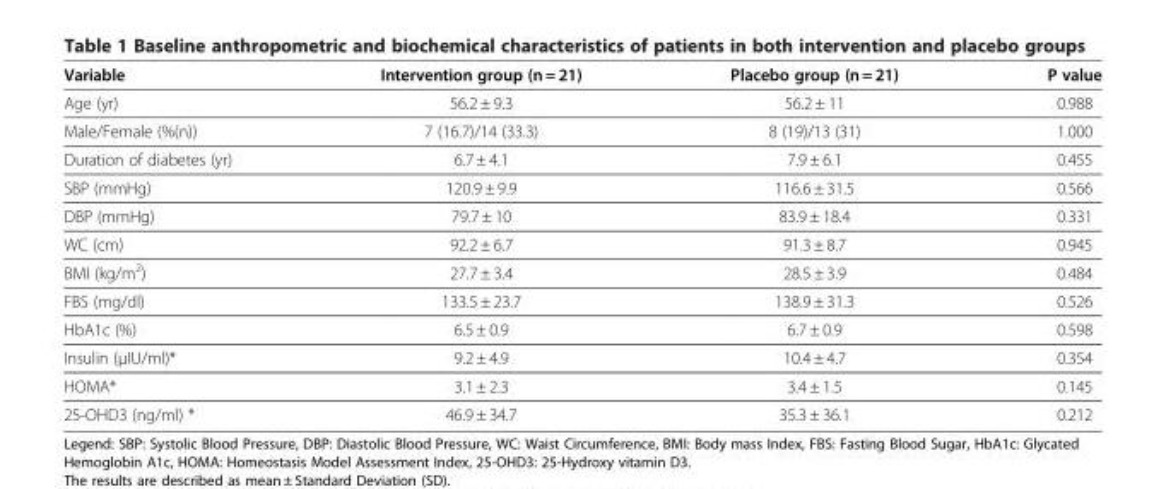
<table><thead><tr><td>Variable</td><td>Intervention group (n = 21)</td><td>Placebo group (n = 21)</td><td>P value</td></tr></thead><tbody><tr><td>Age (yr)</td><td>56.2 ± 9.3</td><td>56.2 ± 11</td><td>0.988</td></tr><tr><td>Male/Female (%(n))</td><td>7 (16.7)/14 (33.3)</td><td>8 (19)/13 (31)</td><td>1.000</td></tr><tr><td>Duration of diabetes (yr)</td><td>6.7 ± 4.1</td><td>7.9 ± 6.1</td><td>0.455</td></tr><tr><td>SBP (mmHg)</td><td>120.9 ± 9.9</td><td>116.6 ± 31.5</td><td>0.566</td></tr><tr><td>DBP (mmHg)</td><td>79.7 ± 10</td><td>83.9 ± 18.4</td><td>0.331</td></tr><tr><td>WC (cm)</td><td>92.2 ± 6.7</td><td>91.3 ± 8.7</td><td>0.945</td></tr><tr><td>BMI (kg/m<sup>2</sup>)</td><td>27.7 ± 3.4</td><td>28.5 ± 3.9</td><td>0.484</td></tr><tr><td>FBS (mg/dl)</td><td>133.5 ± 23.7</td><td>138.9 ± 31.3</td><td>0.526</td></tr><tr><td>HbA1c (%)</td><td>6.5 ± 0.9</td><td>6.7 ± 0.9</td><td>0.598</td></tr><tr><td>Insulin (μIU/ml)*</td><td>9.2 ± 4.9</td><td>10.4 ± 4.7</td><td>0.354</td></tr><tr><td>HOMA*</td><td>3.1 ± 2.3</td><td>3.4 ± 1.5</td><td>0.145</td></tr><tr><td>25-OHD3 (ng/ml) *</td><td>46.9 ± 34.7</td><td>35.3 ± 36.1</td><td>0.212</td></tr></tbody></table>